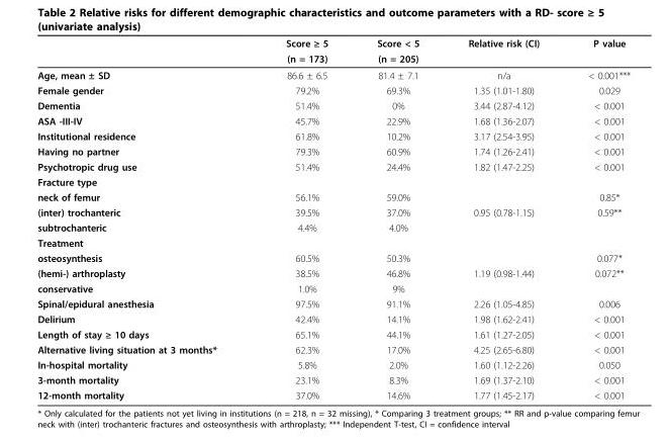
<table><thead><tr><td rowspan="2"></td><td rowspan="2">Score ≥ 5 (n = 173)</td><td rowspan="2">Score &lt; 5 (n = 205)</td><td rowspan="2">Relative risk (CI)</td><td rowspan="2">P value</td></tr><tr></tr></thead><tbody><tr><td>Age, mean ± SD</td><td>86.6 ± 6.5</td><td>81.4 ± 7.1</td><td>n/a</td><td>&lt; 0.001***</td></tr><tr><td>Female gender</td><td>79.2%</td><td>69.3%</td><td>1.35 (1.01-1.80)</td><td>0.029</td></tr><tr><td>Dementia</td><td>51.4%</td><td>0%</td><td>3.44 (2.87-4.12)</td><td>&lt; 0.001</td></tr><tr><td>ASA -III-IV</td><td>45.7%</td><td>22.9%</td><td>1.68 (1.36-2.07)</td><td>&lt; 0.001</td></tr><tr><td>Institutional residence</td><td>61.8%</td><td>10.2%</td><td>3.17 (2.54-3.95)</td><td>&lt; 0.001</td></tr><tr><td>Having no partner</td><td>79.3%</td><td>60.9%</td><td>1.74 (1.26-2.41)</td><td>&lt; 0.001</td></tr><tr><td>Psychotropic drug use</td><td>51.4%</td><td>24.4%</td><td>1.82 (1.47-2.25)</td><td>&lt; 0.001</td></tr><tr><td colspan="5">Fracture type</td></tr><tr><td>neck of femur</td><td>56.1%</td><td>59.0%</td><td></td><td>0.85*</td></tr><tr><td>(inter) trochanteric</td><td>39.5%</td><td>37.0%</td><td>0.95 (0.78-1.15)</td><td>0.59**</td></tr><tr><td>subtrochanteric</td><td>4.4%</td><td>4.0%</td><td></td><td></td></tr><tr><td colspan="5">Treatment</td></tr><tr><td>osteosynthesis</td><td>60.5%</td><td>50.3%</td><td></td><td>0.077*</td></tr><tr><td>(hemi-) arthroplasty</td><td>38.5%</td><td>46.8%</td><td>1.19 (0.98-1.44)</td><td>0.072**</td></tr><tr><td>conservative</td><td>1.0%</td><td>9%</td><td></td><td></td></tr><tr><td>Spinal/epidural anesthesia</td><td>97.5%</td><td>91.1%</td><td>2.26 (1.05-4.85)</td><td>0.006</td></tr><tr><td>Delirium</td><td>42.4%</td><td>14.1%</td><td>1.98 (1.62-2.41)</td><td>&lt; 0.001</td></tr><tr><td>Length of stay ≥ 10 days</td><td>65.1%</td><td>44.1%</td><td>1.61 (1.27-2.05)</td><td>&lt; 0.001</td></tr><tr><td>Alternative living situation at 3 months*</td><td>62.3%</td><td>17.0%</td><td>4.25 (2.65-6.80)</td><td>&lt; 0.001</td></tr><tr><td>In-hospital mortality</td><td>5.8%</td><td>2.0%</td><td>1.60 (1.12-2.26)</td><td>0.050</td></tr><tr><td>3-month mortality</td><td>23.1%</td><td>8.3%</td><td>1.69 (1.37-2.10)</td><td>&lt; 0.001</td></tr><tr><td>12-month mortality</td><td>37.0%</td><td>14.6%</td><td>1.77 (1.45-2.17)</td><td>&lt; 0.001</td></tr></tbody></table>